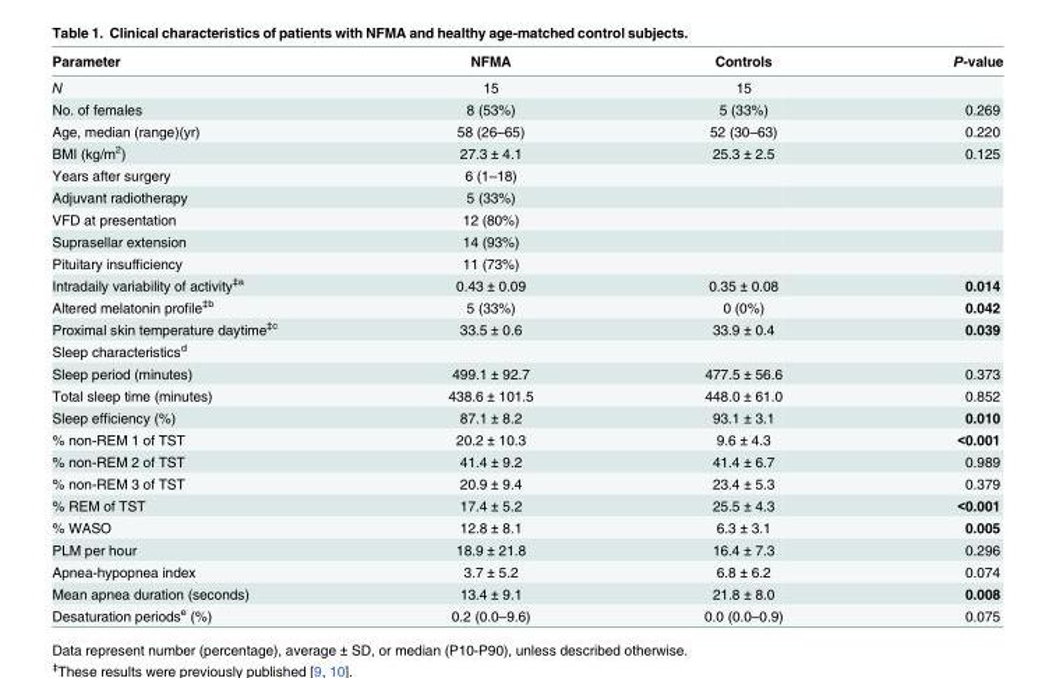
<table><thead><tr><td>Parameter</td><td>NFMA</td><td>Controls</td><td>P-value</td></tr></thead><tbody><tr><td>N</td><td>15</td><td>15</td><td></td></tr><tr><td>No. of females</td><td>8 (53%)</td><td>5 (33%)</td><td>0.269</td></tr><tr><td>Age, median (range)(yr)</td><td>58 (26–65)</td><td>52 (30–63)</td><td>0.220</td></tr><tr><td>BMI (kg/m<sup>2</sup>)</td><td>27.3 ± 4.1</td><td>25.3 ± 2.5</td><td>0.125</td></tr><tr><td>Years after surgery</td><td>6 (1–18)</td><td></td><td></td></tr><tr><td>Adjuvant radiotherapy</td><td>5 (33%)</td><td></td><td></td></tr><tr><td>VFD at presentation</td><td>12 (80%)</td><td></td><td></td></tr><tr><td>Suprasellar extension</td><td>14 (93%)</td><td></td><td></td></tr><tr><td>Pituitary insufficiency</td><td>11 (73%)</td><td></td><td></td></tr><tr><td>Intradaily variability of activity<sup>‡a</sup></td><td>0.43 ± 0.09</td><td>0.35 ± 0.08</td><td>0.014</td></tr><tr><td>Altered melatonin profile<sup>‡b</sup></td><td>5 (33%)</td><td>0 (0%)</td><td>0.042</td></tr><tr><td>Proximal skin temperature daytime<sup>‡c</sup></td><td>33.5 ± 0.6</td><td>33.9 ± 0.4</td><td>0.039</td></tr><tr><td colspan="4">Sleep characteristics<sup>d</sup></td></tr><tr><td>Sleep period (minutes)</td><td>499.1 ± 92.7</td><td>477.5 ± 56.6</td><td>0.373</td></tr><tr><td>Total sleep time (minutes)</td><td>438.6 ± 101.5</td><td>448.0 ± 61.0</td><td>0.852</td></tr><tr><td>Sleep efficiency (%)</td><td>87.1 ± 8.2</td><td>93.1 ± 3.1</td><td>0.010</td></tr><tr><td>% non-REM 1 of TST</td><td>20.2 ± 10.3</td><td>9.6 ± 4.3</td><td>&lt;0.001</td></tr><tr><td>% non-REM 2 of TST</td><td>41.4 ± 9.2</td><td>41.4 ± 6.7</td><td>0.989</td></tr><tr><td>% non-REM 3 of TST</td><td>20.9 ± 9.4</td><td>23.4 ± 5.3</td><td>0.379</td></tr><tr><td>% REM of TST</td><td>17.4 ± 5.2</td><td>25.5 ± 4.3</td><td>&lt;0.001</td></tr><tr><td>% WASO</td><td>12.8 ± 8.1</td><td>6.3 ± 3.1</td><td>0.005</td></tr><tr><td>PLM per hour</td><td>18.9 ± 21.8</td><td>16.4 ± 7.3</td><td>0.296</td></tr><tr><td>Apnea-hypopnea index</td><td>3.7 ± 5.2</td><td>6.8 ± 6.2</td><td>0.074</td></tr><tr><td>Mean apnea duration (seconds)</td><td>13.4 ± 9.1</td><td>21.8 ± 8.0</td><td>0.008</td></tr><tr><td>Desaturation periods<sup>e</sup> (%)</td><td>0.2 (0.0–9.6)</td><td>0.0 (0.0–0.9)</td><td>0.075</td></tr></tbody></table>